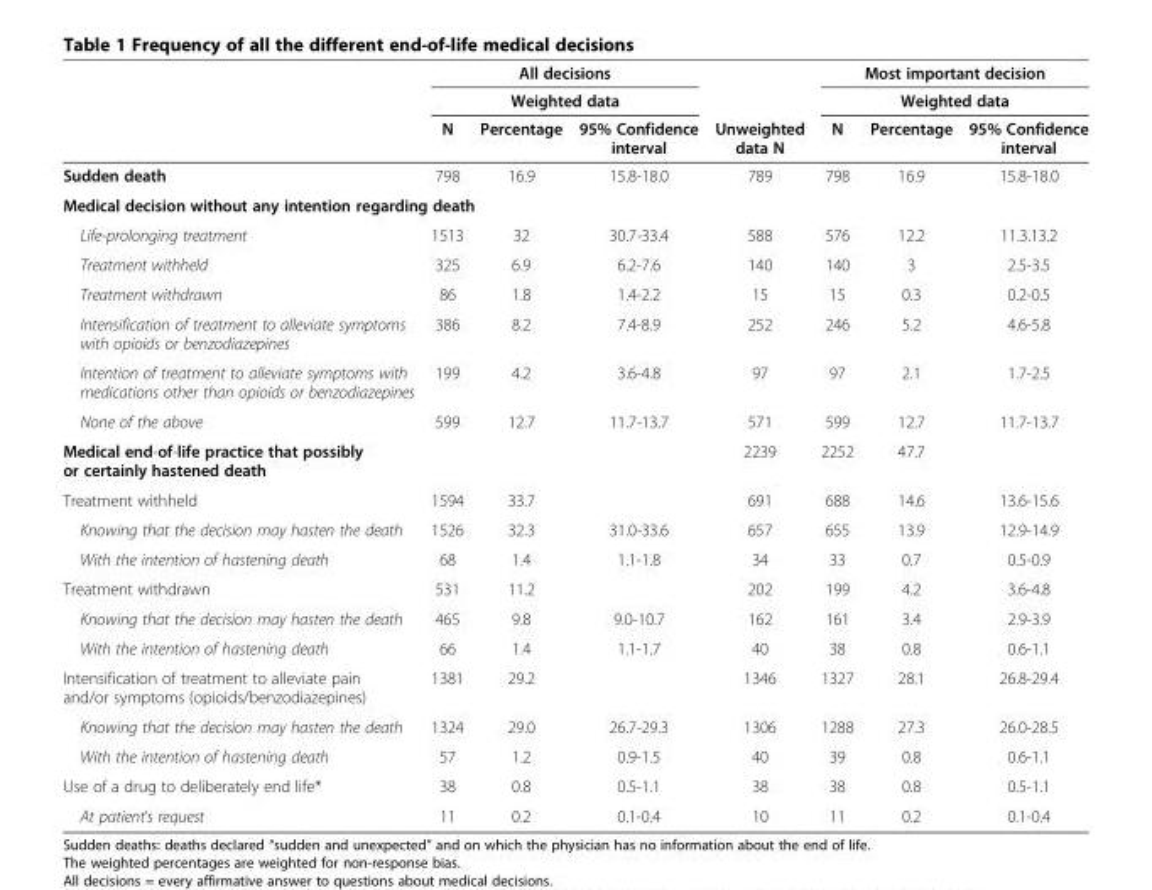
<table><thead><tr><td rowspan="3"></td><td rowspan="2" colspan="3">All decisions Weighted data</td><td rowspan="3">Unweighted data N</td><td rowspan="2" colspan="3">Most important decision Weighted data</td></tr><tr></tr><tr><td>N</td><td>Percentage</td><td>95% Confidence interval</td><td>N</td><td>Percentage</td><td>95% Confidence interval</td></tr></thead><tbody><tr><td>Sudden death</td><td>798</td><td>16.9</td><td>15.8-18.0</td><td>789</td><td>798</td><td>16.9</td><td>15.8-18.0</td></tr><tr><td colspan="8">Medical decision without any intention regarding death</td></tr><tr><td>Life-prolonging treatment</td><td>1513</td><td>32</td><td>30.7-33.4</td><td>588</td><td>576</td><td>12.2</td><td>11.3.13.2</td></tr><tr><td>Treatment withheld</td><td>325</td><td>6.9</td><td>6.2-7.6</td><td>140</td><td>140</td><td>3</td><td>2.5-3.5</td></tr><tr><td>Treatment withdrawn</td><td>86</td><td>1.8</td><td>1.4-2.2</td><td>15</td><td>15</td><td>0.3</td><td>0.2-0.5</td></tr><tr><td>Intensification of treatment to alleviate symptoms with opioids or benzodiazepines</td><td>386</td><td>8.2</td><td>7.4-8.9</td><td>252</td><td>246</td><td>5.2</td><td>4.6-5.8</td></tr><tr><td>Intention of treatment to alleviate symptoms with medications other than opioids or benzodiazepines</td><td>199</td><td>4.2</td><td>3.6-4.8</td><td>97</td><td>97</td><td>2.1</td><td>1.7-2.5</td></tr><tr><td>None of the above</td><td>599</td><td>12.7</td><td>11.7-13.7</td><td>571</td><td>599</td><td>12.7</td><td>11.7-13.7</td></tr><tr><td>Medical end-of-life practice that possibly or certainly hastened death</td><td></td><td></td><td></td><td>2239</td><td>2252</td><td>47.7</td><td></td></tr><tr><td>Treatment withheld</td><td>1594</td><td>33.7</td><td></td><td>691</td><td>688</td><td>14.6</td><td>13.6-15.6</td></tr><tr><td>Knowing that the decision may hasten the death</td><td>1526</td><td>32.3</td><td>31.0-33.6</td><td>657</td><td>655</td><td>13.9</td><td>12.9-14.9</td></tr><tr><td>With the intention of hastening death</td><td>68</td><td>1.4</td><td>1.1-1.8</td><td>34</td><td>33</td><td>0.7</td><td>0.5-0.9</td></tr><tr><td>Treatment withdrawn</td><td>531</td><td>11.2</td><td></td><td>202</td><td>199</td><td>4.2</td><td>3.6-4.8</td></tr><tr><td>Knowing that the decision may hasten the death</td><td>465</td><td>9.8</td><td>9.0-10.7</td><td>162</td><td>161</td><td>3.4</td><td>2.9-3.9</td></tr><tr><td>With the intention of hastening death</td><td>66</td><td>1.4</td><td>1.1-1.7</td><td>40</td><td>38</td><td>0.8</td><td>0.6-1.1</td></tr><tr><td>Intensification of treatment to alleviate pain and/or symptoms (opioids/benzodiazepines)</td><td>1381</td><td>29.2</td><td></td><td>1346</td><td>1327</td><td>28.1</td><td>26.8-29.4</td></tr><tr><td>Knowing that the decision may hasten the death</td><td>1324</td><td>29.0</td><td>26.7-29.3</td><td>1306</td><td>1288</td><td>27.3</td><td>26.0-28.5</td></tr><tr><td>With the intention of hastening death</td><td>57</td><td>1.2</td><td>0.9-1.5</td><td>40</td><td>39</td><td>0.8</td><td>0.6-1.1</td></tr><tr><td>Use of a drug to deliberately end life*</td><td>38</td><td>0.8</td><td>0.5-1.1</td><td>38</td><td>38</td><td>0.8</td><td>0.5-1.1</td></tr><tr><td>At patient’s request</td><td>11</td><td>0.2</td><td>0.1-0.4</td><td>10</td><td>11</td><td>0.2</td><td>0.1-0.4</td></tr></tbody></table>